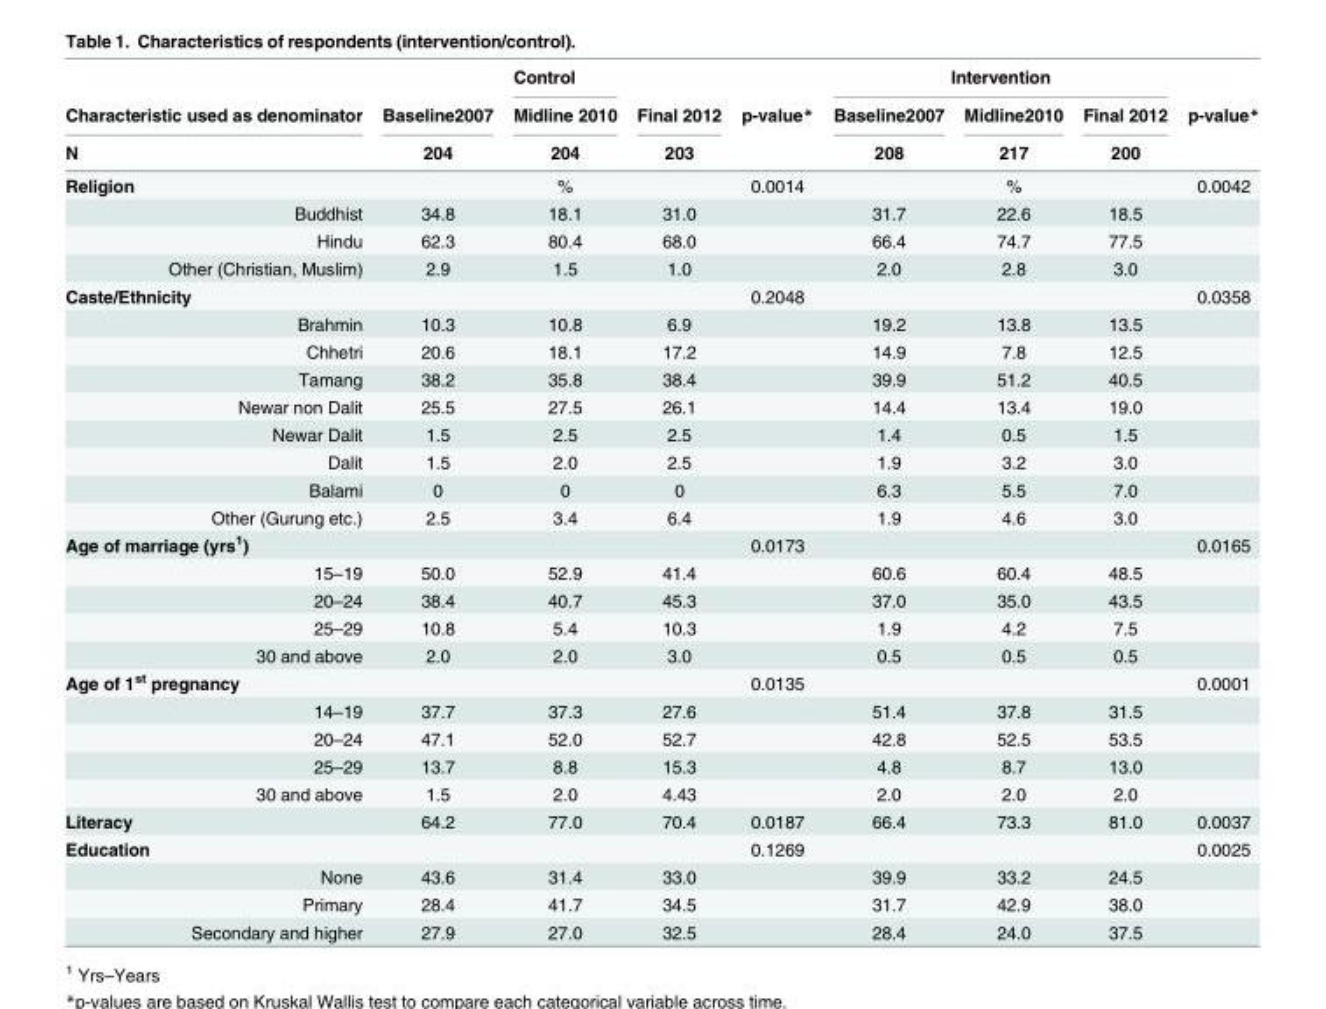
<table><thead><tr><td rowspan="3">Characteristic used as denominator N</td><td rowspan="3">Baseline2007 204</td><td rowspan="3">Control Midline 2010 204</td><td rowspan="3">Final 2012 203</td><td rowspan="3">p-value*</td><td colspan="3">Intervention</td><td rowspan="3">p-value*</td></tr><tr><td rowspan="2">Baseline2007 208</td><td rowspan="2">Midline2010 217</td><td rowspan="2">Final 2012 200</td></tr><tr></tr></thead><tbody><tr><td>Religion</td><td></td><td>%</td><td></td><td>0.0014</td><td></td><td>%</td><td></td><td>0.0042</td></tr><tr><td>Buddhist</td><td>34.8</td><td>18.1</td><td>31.0</td><td></td><td>31.7</td><td>22.6</td><td>18.5</td><td></td></tr><tr><td>Hindu</td><td>62.3</td><td>80.4</td><td>68.0</td><td></td><td>66.4</td><td>74.7</td><td>77.5</td><td></td></tr><tr><td>Other (Christian, Muslim)</td><td>2.9</td><td>1.5</td><td>1.0</td><td></td><td>2.0</td><td>2.8</td><td>3.0</td><td></td></tr><tr><td>Caste/Ethnicity</td><td></td><td></td><td></td><td>0.2048</td><td></td><td></td><td></td><td>0.0358</td></tr><tr><td>Brahmin</td><td>10.3</td><td>10.8</td><td>6.9</td><td></td><td>19.2</td><td>13.8</td><td>13.5</td><td></td></tr><tr><td>Chhetri</td><td>20.6</td><td>18.1</td><td>17.2</td><td></td><td>14.9</td><td>7.8</td><td>12.5</td><td></td></tr><tr><td>Tamang</td><td>38.2</td><td>35.8</td><td>38.4</td><td></td><td>39.9</td><td>51.2</td><td>40.5</td><td></td></tr><tr><td>Newar non Dalit</td><td>25.5</td><td>27.5</td><td>26.1</td><td></td><td>14.4</td><td>13.4</td><td>19.0</td><td></td></tr><tr><td>Newar Dalit</td><td>1.5</td><td>2.5</td><td>2.5</td><td></td><td>1.4</td><td>0.5</td><td>1.5</td><td></td></tr><tr><td>Dalit</td><td>1.5</td><td>2.0</td><td>2.5</td><td></td><td>1.9</td><td>3.2</td><td>3.0</td><td></td></tr><tr><td>Balami</td><td>0</td><td>0</td><td>0</td><td></td><td>6.3</td><td>5.5</td><td>7.0</td><td></td></tr><tr><td>Other (Gurung etc.)</td><td>2.5</td><td>3.4</td><td>6.4</td><td></td><td>1.9</td><td>4.6</td><td>3.0</td><td></td></tr><tr><td>Age of marriage (yrs<sup>1</sup>)</td><td></td><td></td><td></td><td>0.0173</td><td></td><td></td><td></td><td>0.0165</td></tr><tr><td>15–19</td><td>50.0</td><td>52.9</td><td>41.4</td><td></td><td>60.6</td><td>60.4</td><td>48.5</td><td></td></tr><tr><td>20–24</td><td>38.4</td><td>40.7</td><td>45.3</td><td></td><td>37.0</td><td>35.0</td><td>43.5</td><td></td></tr><tr><td>25–29</td><td>10.8</td><td>5.4</td><td>10.3</td><td></td><td>1.9</td><td>4.2</td><td>7.5</td><td></td></tr><tr><td>30 and above</td><td>2.0</td><td>2.0</td><td>3.0</td><td></td><td>0.5</td><td>0.5</td><td>0.5</td><td></td></tr><tr><td>Age of 1<sup>st</sup> pregnancy</td><td></td><td></td><td></td><td>0.0135</td><td></td><td></td><td></td><td>0.0001</td></tr><tr><td>14–19</td><td>37.7</td><td>37.3</td><td>27.6</td><td></td><td>51.4</td><td>37.8</td><td>31.5</td><td></td></tr><tr><td>20–24</td><td>47.1</td><td>52.0</td><td>52.7</td><td></td><td>42.8</td><td>52.5</td><td>53.5</td><td></td></tr><tr><td>25–29</td><td>13.7</td><td>8.8</td><td>15.3</td><td></td><td>4.8</td><td>8.7</td><td>13.0</td><td></td></tr><tr><td>30 and above</td><td>1.5</td><td>2.0</td><td>4.43</td><td></td><td>2.0</td><td>2.0</td><td>2.0</td><td></td></tr><tr><td>Literacy</td><td>64.2</td><td>77.0</td><td>70.4</td><td>0.0187</td><td>66.4</td><td>73.3</td><td>81.0</td><td>0.0037</td></tr><tr><td>Education</td><td></td><td></td><td></td><td>0.1269</td><td></td><td></td><td></td><td>0.0025</td></tr><tr><td>None</td><td>43.6</td><td>31.4</td><td>33.0</td><td></td><td>39.9</td><td>33.2</td><td>24.5</td><td></td></tr><tr><td>Primary</td><td>28.4</td><td>41.7</td><td>34.5</td><td></td><td>31.7</td><td>42.9</td><td>38.0</td><td></td></tr><tr><td>Secondary and higher</td><td>27.9</td><td>27.0</td><td>32.5</td><td></td><td>28.4</td><td>24.0</td><td>37.5</td><td></td></tr></tbody></table>